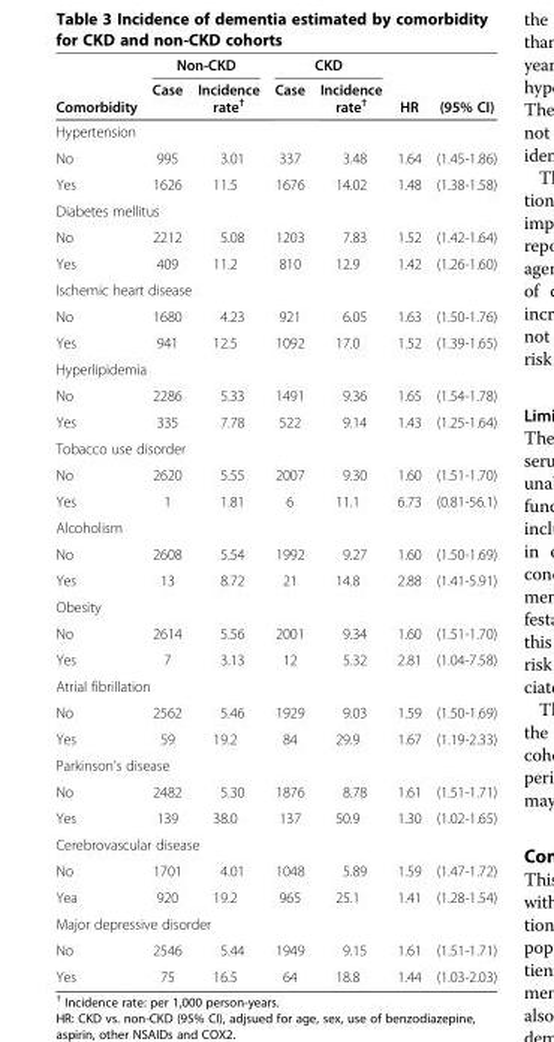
<table><thead><tr><td rowspan="2">Comorbidity</td><td colspan="2">Non-CKD</td><td colspan="2">CKD</td><td rowspan="2">HR</td><td rowspan="2">(95% CI)</td></tr><tr><td>Case</td><td>Incidence rate<sup>†</sup></td><td>Case</td><td>Incidence rate<sup>†</sup></td></tr></thead><tbody><tr><td colspan="7">Hypertension</td></tr><tr><td>No</td><td>995</td><td>3.01</td><td>337</td><td>3.48</td><td>1.64</td><td>(1.45-1.86)</td></tr><tr><td>Yes</td><td>1626</td><td>11.5</td><td>1676</td><td>14.02</td><td>1.48</td><td>(1.38-1.58)</td></tr><tr><td colspan="7">Diabetes mellitus</td></tr><tr><td>No</td><td>2212</td><td>5.08</td><td>1203</td><td>7.83</td><td>1.52</td><td>(1.42-1.64)</td></tr><tr><td>Yes</td><td>409</td><td>11.2</td><td>810</td><td>12.9</td><td>1.42</td><td>(1.26-1.60)</td></tr><tr><td colspan="7">Ischemic heart disease</td></tr><tr><td>No</td><td>1680</td><td>4.23</td><td>921</td><td>6.05</td><td>1.63</td><td>(1.50-1.76)</td></tr><tr><td>Yes</td><td>941</td><td>12.5</td><td>1092</td><td>17.0</td><td>1.52</td><td>(1.39-1.65)</td></tr><tr><td colspan="7">Hyperlipidemia</td></tr><tr><td>No</td><td>2286</td><td>5.33</td><td>1491</td><td>9.36</td><td>1.65</td><td>(1.54-1.78)</td></tr><tr><td>Yes</td><td>335</td><td>7.78</td><td>522</td><td>9.14</td><td>1.43</td><td>(1.25-1.64)</td></tr><tr><td colspan="7">Tobacco use disorder</td></tr><tr><td>No</td><td>2620</td><td>5.55</td><td>2007</td><td>9.30</td><td>1.60</td><td>(1.51-1.70)</td></tr><tr><td>Yes</td><td>1</td><td>1.81</td><td>6</td><td>11.1</td><td>6.73</td><td>(0.81-56.1)</td></tr><tr><td colspan="7">Alcoholism</td></tr><tr><td>No</td><td>2608</td><td>5.54</td><td>1992</td><td>9.27</td><td>1.60</td><td>(1.50-1.69)</td></tr><tr><td>Yes</td><td>13</td><td>8.72</td><td>21</td><td>14.8</td><td>2.88</td><td>(1.41-5.91)</td></tr><tr><td colspan="7">Obesity</td></tr><tr><td>No</td><td>2614</td><td>5.56</td><td>2001</td><td>9.34</td><td>1.60</td><td>(1.51-1.70)</td></tr><tr><td>Yes</td><td>7</td><td>3.13</td><td>12</td><td>5.32</td><td>2.81</td><td>(1.04-7.58)</td></tr><tr><td colspan="7">Atrial fibrillation</td></tr><tr><td>No</td><td>2562</td><td>5.46</td><td>1929</td><td>9.03</td><td>1.59</td><td>(1.50-1.69)</td></tr><tr><td>Yes</td><td>59</td><td>19.2</td><td>84</td><td>29.9</td><td>1.67</td><td>(1.19-2.33)</td></tr><tr><td colspan="7">Parkinson&#x27;s disease</td></tr><tr><td>No</td><td>2482</td><td>5.30</td><td>1876</td><td>8.78</td><td>1.61</td><td>(1.51-1.71)</td></tr><tr><td>Yes</td><td>139</td><td>38.0</td><td>137</td><td>50.9</td><td>1.30</td><td>(1.02-1.65)</td></tr><tr><td colspan="7">Cerebrovascular disease</td></tr><tr><td>No</td><td>1701</td><td>4.01</td><td>1048</td><td>5.89</td><td>1.59</td><td>(1.47-1.72)</td></tr><tr><td>Yea</td><td>920</td><td>19.2</td><td>965</td><td>25.1</td><td>1.41</td><td>(1.28-1.54)</td></tr><tr><td colspan="7">Major depressive disorder</td></tr><tr><td>No</td><td>2546</td><td>5.44</td><td>1949</td><td>9.15</td><td>1.61</td><td>(1.51-1.71)</td></tr><tr><td>Yes</td><td>75</td><td>16.5</td><td>64</td><td>18.8</td><td>1.44</td><td>(1.03-2.03)</td></tr></tbody></table>